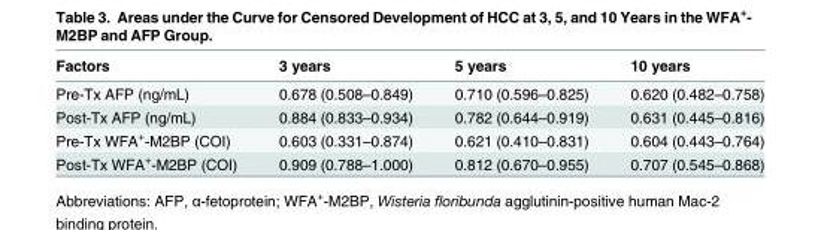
<table><thead><tr><td>Factors</td><td>3 years</td><td>5 years</td><td>10 years</td></tr></thead><tbody><tr><td>Pre-Tx AFP (ng/mL)</td><td>0.678 (0.508–0.849)</td><td>0.710 (0.596–0.825)</td><td>0.620 (0.482–0.758)</td></tr><tr><td>Post-Tx AFP (ng/mL)</td><td>0.884 (0.833–0.934)</td><td>0.782 (0.644–0.919)</td><td>0.631 (0.445–0.816)</td></tr><tr><td>Pre-Tx WFA<sup>+</sup>-M2BP (COI)</td><td>0.603 (0.331–0.874)</td><td>0.621 (0.410–0.831)</td><td>0.604 (0.443–0.764)</td></tr><tr><td>Post-Tx WFA<sup>+</sup>-M2BP (COI)</td><td>0.909 (0.788–1.000)</td><td>0.812 (0.670–0.955)</td><td>0.707 (0.545–0.868)</td></tr></tbody></table>